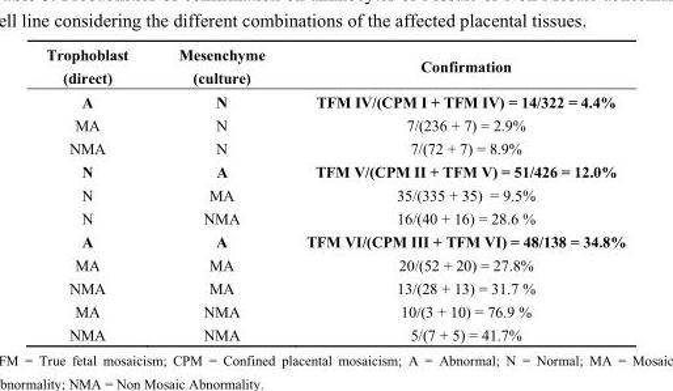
<table><thead><tr><td rowspan="2">Trophoblast (direct)</td><td rowspan="2">Mesenchyme (culture)</td><td rowspan="2">Confirmation</td></tr><tr></tr></thead><tbody><tr><td>A</td><td>N</td><td>TFM IV/(CPM I + TFM IV) = 14/322 = 4.4%</td></tr><tr><td>MA</td><td>N</td><td>7/(236 + 7) = 2.9%</td></tr><tr><td>NMA</td><td>N</td><td>7/(72 + 7) = 8.9%</td></tr><tr><td>N</td><td>A</td><td>TFM V/(CPM II + TFM V) = 51/426 = 12.0%</td></tr><tr><td>N</td><td>MA</td><td>35/(335 + 35) = 9.5%</td></tr><tr><td>N</td><td>NMA</td><td>16/(40 + 16) = 28.6 %</td></tr><tr><td>A</td><td>A</td><td>TFM VI/(CPM III + TFM VI) = 48/138 = 34.8%</td></tr><tr><td>MA</td><td>MA</td><td>20/(52 + 20) = 27.8%</td></tr><tr><td>NMA</td><td>MA</td><td>13/(28 + 13) = 31.7 %</td></tr><tr><td>MA</td><td>NMA</td><td>10/(3 + 10) = 76.9 %</td></tr><tr><td>NMA</td><td>NMA</td><td>5/(7 + 5) = 41.7%</td></tr></tbody></table>